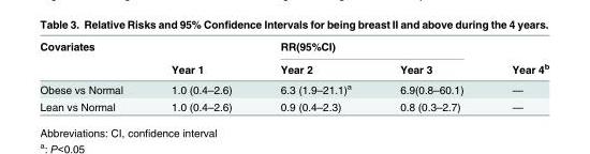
<table><thead><tr><td rowspan="2">Covariates</td><td rowspan="2">Year 1</td><td colspan="2">RR(95%CI)</td><td rowspan="2">Year 4<sup>b</sup></td></tr><tr><td>Year 2</td><td>Year 3</td></tr></thead><tbody><tr><td>Obese vs Normal</td><td>1.0 (0.4–2.6)</td><td>6.3 (1.9–21.1)<sup>a</sup></td><td>6.9(0.8–60.1)</td><td>—</td></tr><tr><td>Lean vs Normal</td><td>1.0 (0.4–2.6)</td><td>0.9 (0.4–2.3)</td><td>0.8 (0.3–2.7)</td><td>—</td></tr></tbody></table>